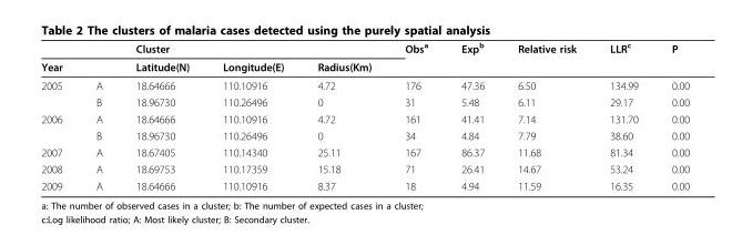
<table><thead><tr><td rowspan="2">Year</td><td rowspan="2"></td><td colspan="3">Cluster</td><td rowspan="2">Obs<sup>a</sup></td><td rowspan="2">Exp<sup>b</sup></td><td rowspan="2">Relative risk</td><td rowspan="2">LLR<sup>c</sup></td><td rowspan="2">P</td></tr><tr><td>Latitude(N)</td><td>Longitude(E)</td><td>Radius(Km)</td></tr></thead><tbody><tr><td rowspan="2">2005</td><td>A</td><td>18.64666</td><td>110.10916</td><td>4.72</td><td>176</td><td>47.36</td><td>6.50</td><td>134.99</td><td>0.00</td></tr><tr><td>B</td><td>18.96730</td><td>110.26496</td><td>0</td><td>31</td><td>5.48</td><td>6.11</td><td>29.17</td><td>0.00</td></tr><tr><td rowspan="2">2006</td><td>A</td><td>18.64666</td><td>110.10916</td><td>4.72</td><td>161</td><td>41.41</td><td>7.14</td><td>131.70</td><td>0.00</td></tr><tr><td>B</td><td>18.96730</td><td>110.26496</td><td>0</td><td>34</td><td>4.84</td><td>7.79</td><td>38.60</td><td>0.00</td></tr><tr><td>2007</td><td>A</td><td>18.67405</td><td>110.14340</td><td>25.11</td><td>167</td><td>86.37</td><td>11.68</td><td>81.34</td><td>0.00</td></tr><tr><td>2008</td><td>A</td><td>18.69753</td><td>110.17359</td><td>15.18</td><td>71</td><td>26.41</td><td>14.67</td><td>53.24</td><td>0.00</td></tr><tr><td>2009</td><td>A</td><td>18.64666</td><td>110.10916</td><td>8.37</td><td>18</td><td>4.94</td><td>11.59</td><td>16.35</td><td>0.00</td></tr></tbody></table>